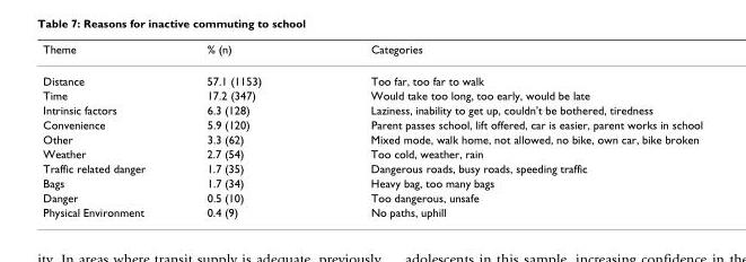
<table><thead><tr><td>Theme</td><td>% (n)</td><td>Categories</td></tr></thead><tbody><tr><td>Distance</td><td>57.1 (1153)</td><td>Too far, too far to walk</td></tr><tr><td>Time</td><td>17.2 (347)</td><td>Would take too long, too early, would be late</td></tr><tr><td>Intrinsic factors</td><td>6.3 (128)</td><td>Laziness, inability to get up, couldn&#x27;t be bothered, tiredness</td></tr><tr><td>Convenience</td><td>5.9 (120)</td><td>Parent passes school, lift offered, car is easier, parent works in school</td></tr><tr><td>Other</td><td>3.3 (62)</td><td>Mixed mode, walk home, not allowed, no bike, own car, bike broken</td></tr><tr><td>Weather</td><td>2.7 (54)</td><td>Too cold, weather, rain</td></tr><tr><td>Traffic related danger</td><td>1.7 (35)</td><td>Dangerous roads, busy roads, speeding traffic</td></tr><tr><td>Bags</td><td>1.7 (34)</td><td>Heavy bag, too many bags</td></tr><tr><td>Danger</td><td>0.5 (10)</td><td>Too dangerous, unsafe</td></tr><tr><td>Physical Environment</td><td>0.4 (9)</td><td>No paths, uphill</td></tr></tbody></table>